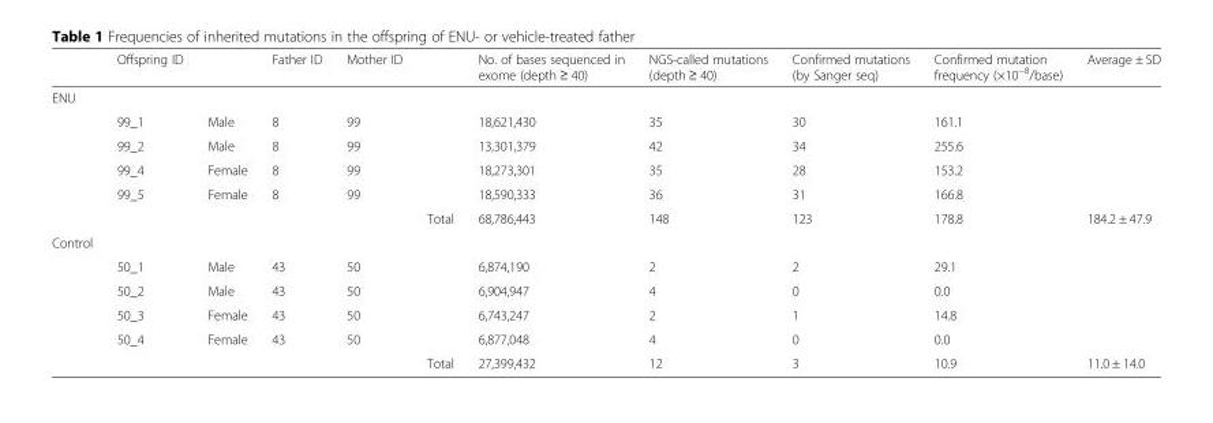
<table><thead><tr><td></td><td>Offspring ID</td><td></td><td>Father ID</td><td>Mother ID</td><td></td><td>No. of bases sequenced in exome (depth ≥ 40)</td><td>NGS-called mutations (depth ≥ 40)</td><td>Confirmed mutations (by Sanger seq)</td><td>Confirmed mutation frequency (×10<sup>−8</sup>/base)</td><td>Average ± SD</td></tr></thead><tbody><tr><td colspan="11">ENU</td></tr><tr><td></td><td>99_1</td><td>Male</td><td>8</td><td>99</td><td></td><td>18,621,430</td><td>35</td><td>30</td><td>161.1</td><td></td></tr><tr><td></td><td>99_2</td><td>Male</td><td>8</td><td>99</td><td></td><td>13,301,379</td><td>42</td><td>34</td><td>255.6</td><td></td></tr><tr><td></td><td>99_4</td><td>Female</td><td>8</td><td>99</td><td></td><td>18,273,301</td><td>35</td><td>28</td><td>153.2</td><td></td></tr><tr><td></td><td>99_5</td><td>Female</td><td>8</td><td>99</td><td></td><td>18,590,333</td><td>36</td><td>31</td><td>166.8</td><td></td></tr><tr><td></td><td></td><td></td><td></td><td></td><td>Total</td><td>68,786,443</td><td>148</td><td>123</td><td>178.8</td><td>184.2 ± 47.9</td></tr><tr><td colspan="11">Control</td></tr><tr><td></td><td>50_1</td><td>Male</td><td>43</td><td>50</td><td></td><td>6,874,190</td><td>2</td><td>2</td><td>29.1</td><td></td></tr><tr><td></td><td>50_2</td><td>Male</td><td>43</td><td>50</td><td></td><td>6,904,947</td><td>4</td><td>0</td><td>0.0</td><td></td></tr><tr><td></td><td>50_3</td><td>Female</td><td>43</td><td>50</td><td></td><td>6,743,247</td><td>2</td><td>1</td><td>14.8</td><td></td></tr><tr><td></td><td>50_4</td><td>Female</td><td>43</td><td>50</td><td></td><td>6,877,048</td><td>4</td><td>0</td><td>0.0</td><td></td></tr><tr><td></td><td></td><td></td><td></td><td></td><td>Total</td><td>27,399,432</td><td>12</td><td>3</td><td>10.9</td><td>11.0 ± 14.0</td></tr></tbody></table>